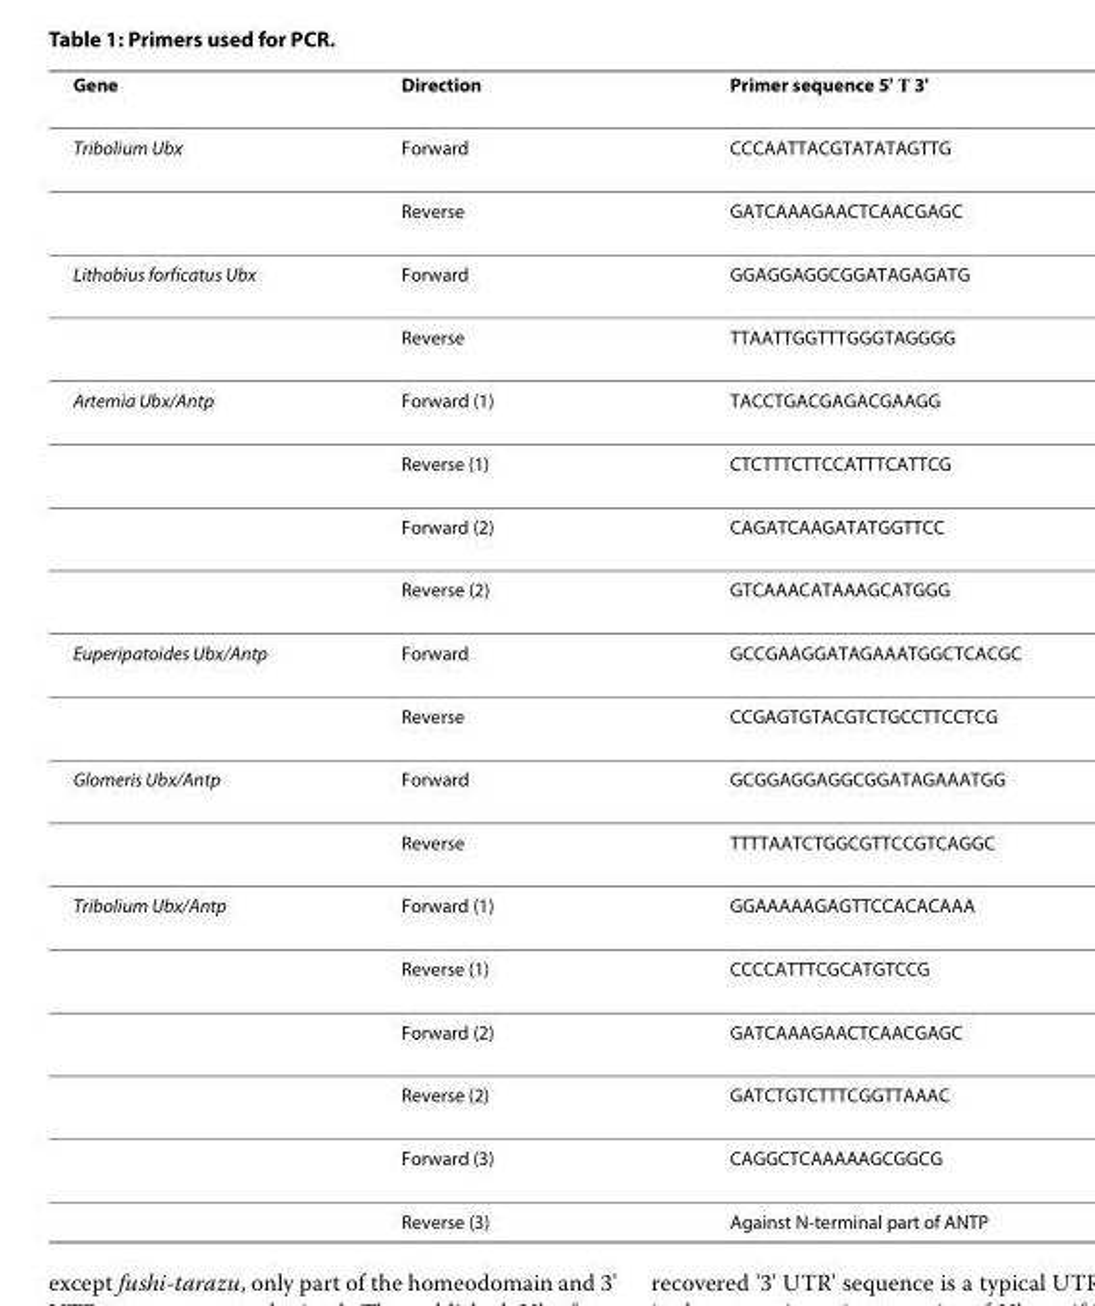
<table><thead><tr><td>Gene</td><td>Direction</td><td>Primer sequence 5&#x27; → 3&#x27;</td></tr></thead><tbody><tr><td rowspan="2">Tribolium Ubx</td><td>Forward</td><td>CCCAATTACGTATATAGTTG</td></tr><tr><td>Reverse</td><td>GATCAAAGAACTCAACGAGC</td></tr><tr><td rowspan="2">Lithobius forficatus Ubx</td><td>Forward</td><td>GGAGGAGGCGGATAGAGATG</td></tr><tr><td>Reverse</td><td>TTAATTGGTTTGGGTAGGGG</td></tr><tr><td rowspan="4">Artemia Ubx/Antp</td><td>Forward (1)</td><td>TACCTGACGAGACGAAGG</td></tr><tr><td>Reverse (1)</td><td>CTCTTTCTTCCATTTCATTCG</td></tr><tr><td>Forward (2)</td><td>CAGATCAAGATATGGTTCC</td></tr><tr><td>Reverse (2)</td><td>GTCAAACATAAAGCATGGG</td></tr><tr><td rowspan="2">Euperipatoides Ubx/Antp</td><td>Forward</td><td>GCCGAAGGATAGAAATGGCTCACGC</td></tr><tr><td>Reverse</td><td>CCGAGTGTACGTCTGCCTTCCTCG</td></tr><tr><td rowspan="2">Glomeris Ubx/Antp</td><td>Forward</td><td>GCGGAGGAGGCGGATAGAAATGG</td></tr><tr><td>Reverse</td><td>TTTTAATCTGGCGTTCCGTCAGGC</td></tr><tr><td rowspan="6">Tribolium Ubx/Antp</td><td>Forward (1)</td><td>GGAAAAAGAGTTCCACACAAA</td></tr><tr><td>Reverse (1)</td><td>CCCCATTTCGCATGTCCG</td></tr><tr><td>Forward (2)</td><td>GATCAAAGAACTCAACGAGC</td></tr><tr><td>Reverse (2)</td><td>GATCTGTCTTTCGGTTAAAC</td></tr><tr><td>Forward (3)</td><td>CAGGCTCAAAAAGCGGCG</td></tr><tr><td>Reverse (3)</td><td>Against N-terminal part of ANTP</td></tr></tbody></table>